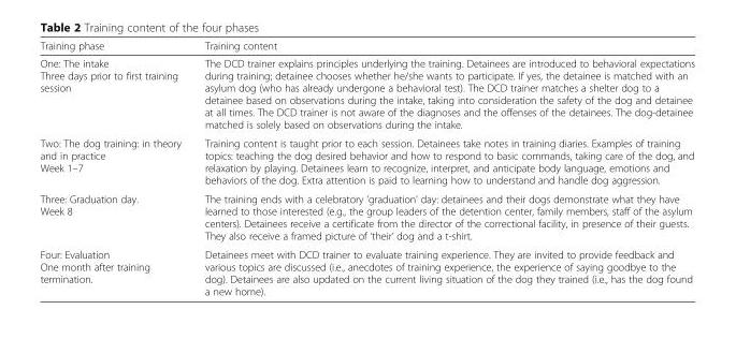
<table><thead><tr><td>Training phase</td><td>Training content</td></tr></thead><tbody><tr><td>One: The intake Three days prior to first training session</td><td>The DCD trainer explains principles underlying the training. Detainees are introduced to behavioral expectations during training; detainee chooses whether he/she wants to participate. If yes, the detainee is matched with an asylum dog (who has already undergone a behavioral test). The DCD trainer matches a shelter dog to a detainee based on observations during the intake, taking into consideration the safety of the dog and detainee at all times. The DCD trainer is not aware of the diagnoses and the offenses of the detainees. The dog-detainee matched is solely based on observations during the intake.</td></tr><tr><td>Two: The dog training: in theory and in practice Week 1–7</td><td>Training content is taught prior to each session. Detainees take notes in training diaries. Examples of training topics: teaching the dog desired behavior and how to respond to basic commands, taking care of the dog, and relaxation by playing. Detainees learn to recognize, interpret, and anticipate body language, emotions and behaviors of the dog. Extra attention is paid to learning how to understand and handle dog aggression.</td></tr><tr><td>Three: Graduation day. Week 8</td><td>The training ends with a celebratory ‘graduation’ day: detainees and their dogs demonstrate what they have learned to those interested (e.g., the group leaders of the detention center, family members, staff of the asylum centers). Detainees receive a certificate from the director of the correctional facility, in presence of their guests. They also receive a framed picture of ‘their’ dog and a t-shirt.</td></tr><tr><td>Four: Evaluation One month after training termination.</td><td>Detainees meet with DCD trainer to evaluate training experience. They are invited to provide feedback and various topics are discussed (i.e., anecdotes of training experience, the experience of saying goodbye to the dog). Detainees are also updated on the current living situation of the dog they trained (i.e., has the dog found a new home).</td></tr></tbody></table>